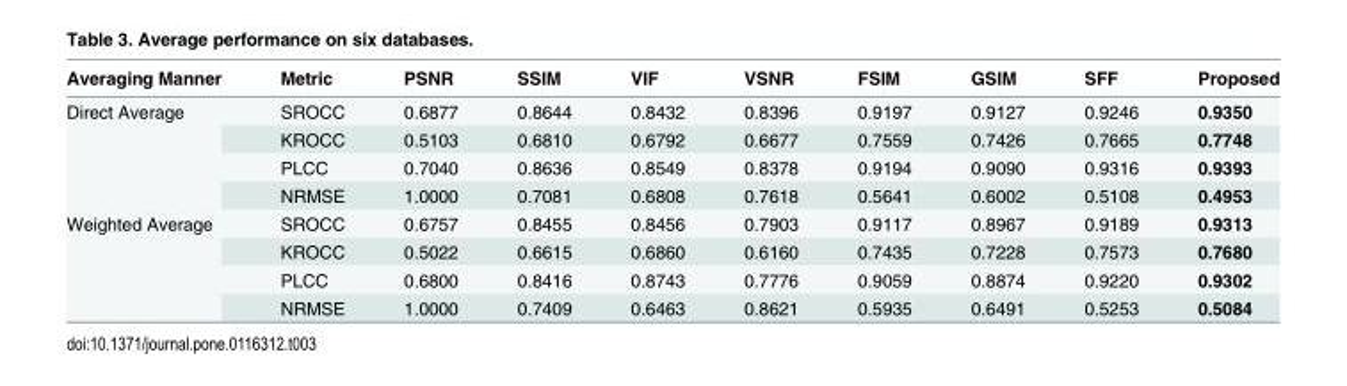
<table><thead><tr><td>Averaging Manner</td><td>Metric</td><td>PSNR</td><td>SSIM</td><td>VIF</td><td>VSNR</td><td>FSIM</td><td>GSIM</td><td>SFF</td><td>Proposed</td></tr></thead><tbody><tr><td rowspan="4">Direct Average</td><td>SROCC</td><td>0.6877</td><td>0.8644</td><td>0.8432</td><td>0.8396</td><td>0.9197</td><td>0.9127</td><td>0.9246</td><td>0.9350</td></tr><tr><td>KROCC</td><td>0.5103</td><td>0.6810</td><td>0.6792</td><td>0.6677</td><td>0.7559</td><td>0.7426</td><td>0.7665</td><td>0.7748</td></tr><tr><td>PLCC</td><td>0.7040</td><td>0.8636</td><td>0.8549</td><td>0.8378</td><td>0.9194</td><td>0.9090</td><td>0.9316</td><td>0.9393</td></tr><tr><td>NRMSE</td><td>1.0000</td><td>0.7081</td><td>0.6808</td><td>0.7618</td><td>0.5641</td><td>0.6002</td><td>0.5108</td><td>0.4953</td></tr><tr><td rowspan="4">Weighted Average</td><td>SROCC</td><td>0.6757</td><td>0.8455</td><td>0.8456</td><td>0.7903</td><td>0.9117</td><td>0.8967</td><td>0.9189</td><td>0.9313</td></tr><tr><td>KROCC</td><td>0.5022</td><td>0.6615</td><td>0.6860</td><td>0.6160</td><td>0.7435</td><td>0.7228</td><td>0.7573</td><td>0.7680</td></tr><tr><td>PLCC</td><td>0.6800</td><td>0.8416</td><td>0.8743</td><td>0.7776</td><td>0.9059</td><td>0.8874</td><td>0.9220</td><td>0.9302</td></tr><tr><td>NRMSE</td><td>1.0000</td><td>0.7409</td><td>0.6463</td><td>0.8621</td><td>0.5935</td><td>0.6491</td><td>0.5253</td><td>0.5084</td></tr></tbody></table>